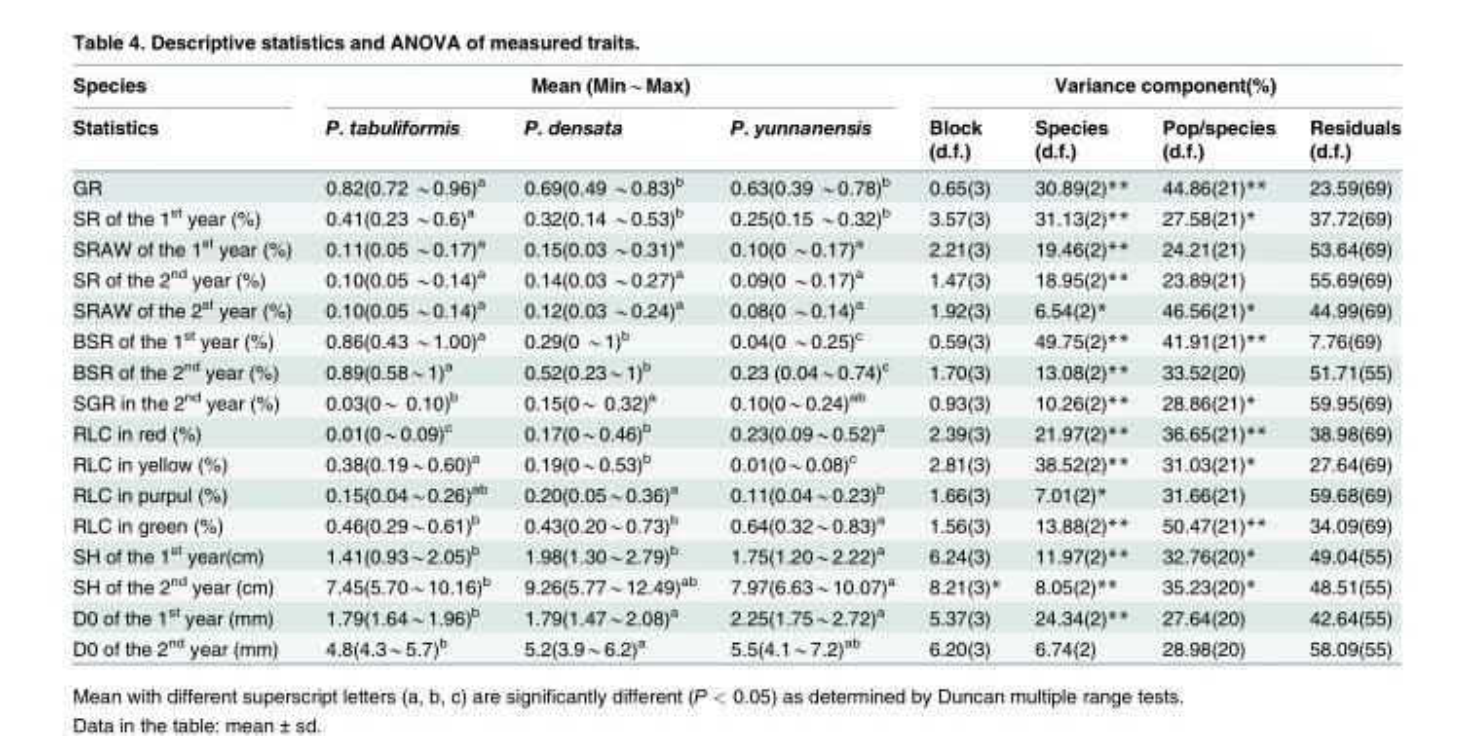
<table><thead><tr><td rowspan="2">Species Statistics</td><td colspan="3">Mean (Min*Max)</td><td colspan="4">Variance component(%)</td></tr><tr><td>P. tabuliformis</td><td>P. densata</td><td>P. yunnanensis</td><td>Block (d.f.)</td><td>Species (d.f.)</td><td>Pop/species (d.f.)</td><td>Residuals (d.f.)</td></tr></thead><tbody><tr><td>GR</td><td>0.82(0.72 *0.96)a</td><td>0.69(0.49 *0.83)b</td><td>0.63(0.39 *0.78)b</td><td>0.65(3)</td><td>30.89(2)**</td><td>44.86(21)**</td><td>23.59(69)</td></tr><tr><td>SR of the 1<sup>st</sup> year (%)</td><td>0.41(0.23 *0.6)a</td><td>0.32(0.14 *0.53)b</td><td>0.25(0.15 *0.32)b</td><td>3.57(3)</td><td>31.13(2)**</td><td>27.58(21)*</td><td>37.72(69)</td></tr><tr><td>SRAW of the 1<sup>st</sup> year (%)</td><td>0.11(0.05 *0.17)a</td><td>0.15(0.03 *0.31)a</td><td>0.10(0 *0.17)a</td><td>2.21(3)</td><td>19.46(2)**</td><td>24.21(21)</td><td>53.64(69)</td></tr><tr><td>SR of the 2<sup>nd</sup> year (%)</td><td>0.10(0.05 *0.14)a</td><td>0.14(0.03 *0.27)a</td><td>0.09(0 *0.17)a</td><td>1.47(3)</td><td>18.95(2)**</td><td>23.89(21)</td><td>55.69(69)</td></tr><tr><td>SRAW of the 2<sup>st</sup> year (%)</td><td>0.10(0.05 *0.14)a</td><td>0.12(0.03 *0.24)a</td><td>0.08(0 *0.14)a</td><td>1.92(3)</td><td>6.54(2)*</td><td>46.56(21)*</td><td>44.99(69)</td></tr><tr><td>BSR of the 1<sup>st</sup> year (%)</td><td>0.86(0.43 *1.00)a</td><td>0.29(0 *1)b</td><td>0.04(0 *0.25)c</td><td>0.59(3)</td><td>49.75(2)**</td><td>41.91(21)**</td><td>7.76(69)</td></tr><tr><td>BSR of the 2<sup>nd</sup> year (%)</td><td>0.89(0.58*1)a</td><td>0.52(0.23*1)b</td><td>0.23 (0.04*0.74)c</td><td>1.70(3)</td><td>13.08(2)**</td><td>33.52(20)</td><td>51.71(55)</td></tr><tr><td>SGR in the 2<sup>nd</sup> year (%)</td><td>0.03(0* 0.10)b</td><td>0.15(0* 0.32)a</td><td>0.10(0*0.24)ab</td><td>0.93(3)</td><td>10.26(2)**</td><td>28.86(21)*</td><td>59.95(69)</td></tr><tr><td>RLC in red (%)</td><td>0.01(0*0.09)c</td><td>0.17(0*0.46)b</td><td>0.23(0.09*0.52)a</td><td>2.39(3)</td><td>21.97(2)**</td><td>36.65(21)**</td><td>38.98(69)</td></tr><tr><td>RLC in yellow (%)</td><td>0.38(0.19*0.60)a</td><td>0.19(0*0.53)b</td><td>0.01(0*0.08)c</td><td>2.81(3)</td><td>38.52(2)**</td><td>31.03(21)*</td><td>27.64(69)</td></tr><tr><td>RLC in purpul (%)</td><td>0.15(0.04*0.26)ab</td><td>0.20(0.05*0.36)a</td><td>0.11(0.04*0.23)b</td><td>1.66(3)</td><td>7.01(2)*</td><td>31.66(21)</td><td>59.68(69)</td></tr><tr><td>RLC in green (%)</td><td>0.46(0.29*0.61)b</td><td>0.43(0.20*0.73)b</td><td>0.64(0.32*0.83)a</td><td>1.56(3)</td><td>13.88(2)**</td><td>50.47(21)**</td><td>34.09(69)</td></tr><tr><td>SH of the 1<sup>st</sup> year(cm)</td><td>1.41(0.93*2.05)b</td><td>1.98(1.30*2.79)b</td><td>1.75(1.20*2.22)a</td><td>6.24(3)</td><td>11.97(2)**</td><td>32.76(20)*</td><td>49.04(55)</td></tr><tr><td>SH of the 2<sup>nd</sup> year (cm)</td><td>7.45(5.70*10.16)b</td><td>9.26(5.77*12.49)ab</td><td>7.97(6.63*10.07)a</td><td>8.21(3)*</td><td>8.05(2)**</td><td>35.23(20)*</td><td>48.51(55)</td></tr><tr><td>D0 of the 1<sup>st</sup> year (mm)</td><td>1.79(1.64*1.96)b</td><td>1.79(1.47*2.08)a</td><td>2.25(1.75*2.72)a</td><td>5.37(3)</td><td>24.34(2)**</td><td>27.64(20)</td><td>42.64(55)</td></tr><tr><td>D0 of the 2<sup>nd</sup> year (mm)</td><td>4.8(4.3*5.7)b</td><td>5.2(3.9*6.2)a</td><td>5.5(4.1*7.2)ab</td><td>6.20(3)</td><td>6.74(2)</td><td>28.98(20)</td><td>58.09(55)</td></tr></tbody></table>